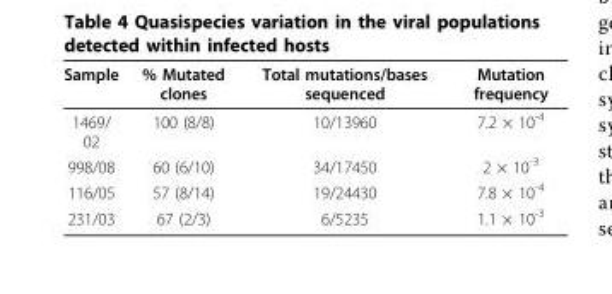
<table><thead><tr><td>Sample</td><td>% Mutated clones</td><td>Total mutations/bases sequenced</td><td>Mutation frequency</td></tr></thead><tbody><tr><td>1469/ 02</td><td>100 (8/8)</td><td>10/13960</td><td>7.2 × 10<sup>-4</sup></td></tr><tr><td>998/08</td><td>60 (6/10)</td><td>34/17450</td><td>2 × 10<sup>-3</sup></td></tr><tr><td>116/05</td><td>57 (8/14)</td><td>19/24430</td><td>7.8 × 10<sup>-4</sup></td></tr><tr><td>231/03</td><td>67 (2/3)</td><td>6/5235</td><td>1.1 × 10<sup>-3</sup></td></tr></tbody></table>